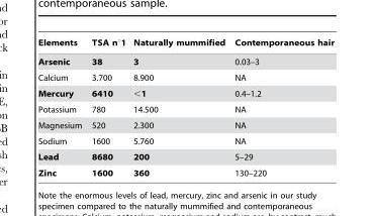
<table><thead><tr><td>Elements</td><td>TSA n°1</td><td>Naturally mummified</td><td>Contemporaneous hair</td></tr></thead><tbody><tr><td>Arsenic</td><td>38</td><td>3</td><td>0.03–3</td></tr><tr><td>Calcium</td><td>3.700</td><td>8.900</td><td>NA</td></tr><tr><td>Mercury</td><td>6410</td><td>&lt;1</td><td>0.4–1.2</td></tr><tr><td>Potassium</td><td>780</td><td>14.500</td><td>NA</td></tr><tr><td>Magnesium</td><td>520</td><td>2.300</td><td>NA</td></tr><tr><td>Sodium</td><td>1600</td><td>5.760</td><td>NA</td></tr><tr><td>Lead</td><td>8680</td><td>200</td><td>5–29</td></tr><tr><td>Zinc</td><td>1600</td><td>360</td><td>130–220</td></tr></tbody></table>